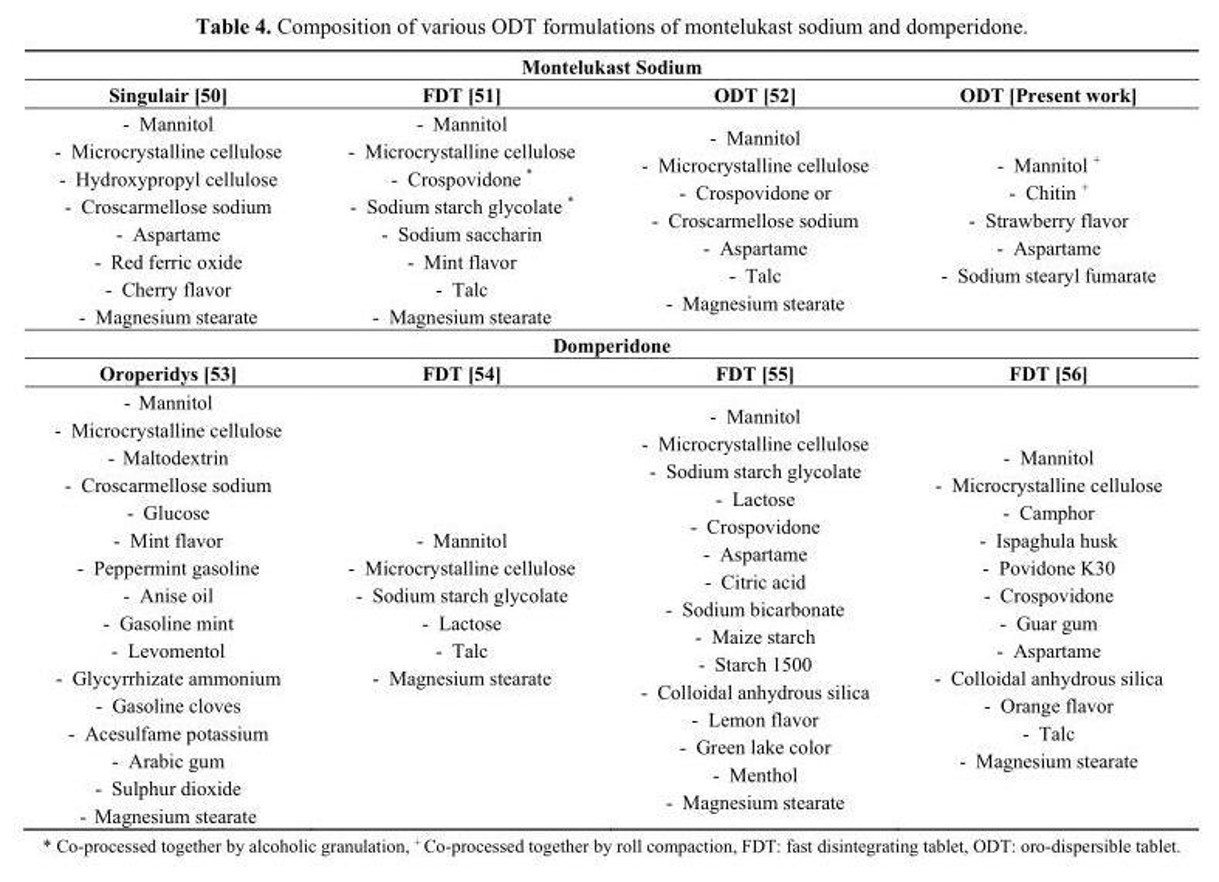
<table><thead><tr><td colspan="4">Montelukast Sodium</td></tr><tr><td>Singulair [50]</td><td>FDT [51]</td><td>ODT [52]</td><td>ODT [Present work]</td></tr></thead><tbody><tr><td>- Mannitol - Microcrystalline cellulose - Hydroxypropyl cellulose - Croscarmellose sodium - Aspartame - Red ferric oxide - Cherry flavor - Magnesium stearate</td><td>- Mannitol - Microcrystalline cellulose - Crospovidone * - Sodium starch glycolate * - Sodium saccharin - Mint flavor - Talc - Magnesium stearate</td><td>- Mannitol - Microcrystalline cellulose - Crospovidone or - Croscarmellose sodium - Aspartame - Talc - Magnesium stearate</td><td>- Mannitol <sup>+</sup> - Chitin <sup>+</sup> - Strawberry flavor - Aspartame - Sodium stearyl fumarate</td></tr><tr><td colspan="4">Domperidone</td></tr><tr><td>Oroperidys [53]</td><td>FDT [54]</td><td>FDT [55]</td><td>FDT [56]</td></tr><tr><td>- Mannitol - Microcrystalline cellulose - Maltodextrin - Croscarmellose sodium - Glucose - Mint flavor - Peppermint gasoline - Anise oil - Gasoline mint - Levomentol - Glycyrrhizate ammonium - Gasoline cloves - Acesulfame potassium - Arabic gum - Sulphur dioxide - Magnesium stearate</td><td>- Mannitol - Microcrystalline cellulose - Sodium starch glycolate - Lactose - Talc - Magnesium stearate</td><td>- Mannitol - Microcrystalline cellulose - Sodium starch glycolate - Lactose - Crospovidone - Aspartame - Citric acid - Sodium bicarbonate - Maize starch - Starch 1500 - Colloidal anhydrous silica - Lemon flavor - Green lake color - Menthol - Magnesium stearate</td><td>- Mannitol - Microcrystalline cellulose - Camphor - Ispaghula husk - Povidone K30 - Crospovidone - Guar gum - Aspartame - Colloidal anhydrous silica - Orange flavor - Talc - Magnesium stearate</td></tr></tbody></table>